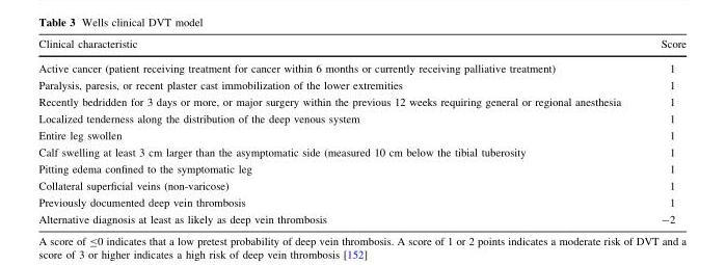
<table><thead><tr><td>Clinical characteristic</td><td>Score</td></tr></thead><tbody><tr><td>Active cancer (patient receiving treatment for cancer within 6 months or currently receiving palliative treatment)</td><td>1</td></tr><tr><td>Paralysis, paresis, or recent plaster cast immobilization of the lower extremities</td><td>1</td></tr><tr><td>Recently bedridden for 3 days or more, or major surgery within the previous 12 weeks requiring general or regional anesthesia</td><td>1</td></tr><tr><td>Localized tenderness along the distribution of the deep venous system</td><td>1</td></tr><tr><td>Entire leg swollen</td><td>1</td></tr><tr><td>Calf swelling at least 3 cm larger than the asymptomatic side (measured 10 cm below the tibial tuberosity</td><td>1</td></tr><tr><td>Pitting edema confined to the symptomatic leg</td><td>1</td></tr><tr><td>Collateral superficial veins (non-varicose)</td><td>1</td></tr><tr><td>Previously documented deep vein thrombosis</td><td>1</td></tr><tr><td>Alternative diagnosis at least as likely as deep vein thrombosis</td><td>-2</td></tr></tbody></table>